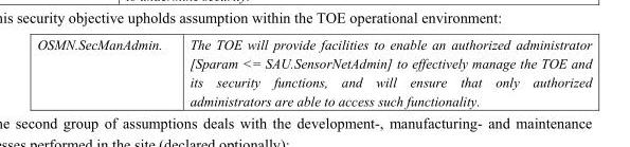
<table><tbody><tr><td>OSMN.SecManAdmin.</td><td>The TOE will provide facilities to enable an authorized administrator [Sparam &lt;= SAU.SensorNetAdmin] to effectively manage the TOE and its security functions, and will ensure that only authorized administrators are able to access such functionality.</td></tr></tbody></table>